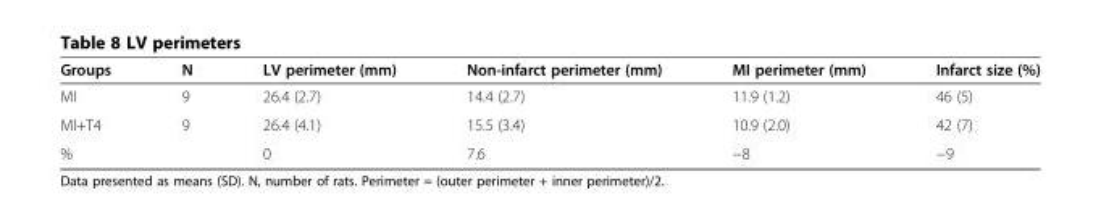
<table><thead><tr><td>Groups</td><td>N</td><td>LV perimeter (mm)</td><td>Non-infarct perimeter (mm)</td><td>MI perimeter (mm)</td><td>Infarct size (%)</td></tr></thead><tbody><tr><td>MI</td><td>9</td><td>26.4 (2.7)</td><td>14.4 (2.7)</td><td>11.9 (1.2)</td><td>46 (5)</td></tr><tr><td>MI+T4</td><td>9</td><td>26.4 (4.1)</td><td>15.5 (3.4)</td><td>10.9 (2.0)</td><td>42 (7)</td></tr><tr><td>%</td><td></td><td>0</td><td>7.6</td><td>−8</td><td>−9</td></tr></tbody></table>